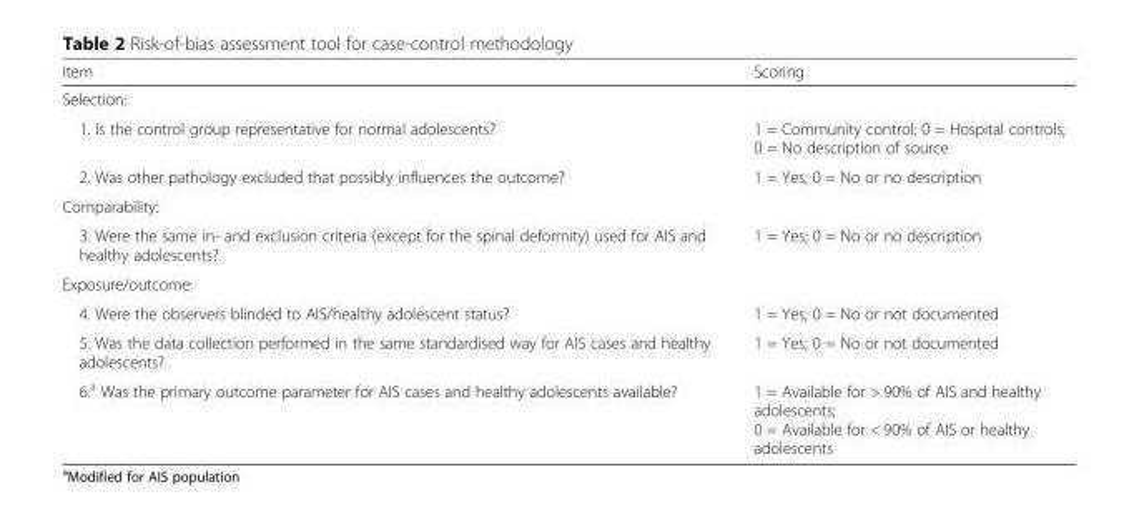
<table><thead><tr><td>Item</td><td>Scoring</td></tr></thead><tbody><tr><td colspan="2">Selection:</td></tr><tr><td>1. Is the control group representative for normal adolescents?</td><td>1 = Community control; 0 = Hospital controls; 0 = No description of source</td></tr><tr><td>2. Was other pathology excluded that possibly influences the outcome?</td><td>1 = Yes; 0 = No or no description</td></tr><tr><td colspan="2">Comparability:</td></tr><tr><td>3. Were the same in- and exclusion criteria (except for the spinal deformity) used for AIS and healthy adolescents?</td><td>1 = Yes; 0 = No or no description</td></tr><tr><td colspan="2">Exposure/outcome:</td></tr><tr><td>4. Were the observers blinded to AIS/healthy adolescent status?</td><td>1 = Yes; 0 = No or not documented</td></tr><tr><td>5. Was the data collection performed in the same standardised way for AIS cases and healthy adolescents?</td><td>1 = Yes; 0 = No or not documented</td></tr><tr><td>6.<sup>a</sup> Was the primary outcome parameter for AIS cases and healthy adolescents available?</td><td>1 = Available for &gt; 90% of AIS and healthy adolescents; 0 = Available for &lt; 90% of AIS or healthy adolescents</td></tr></tbody></table>